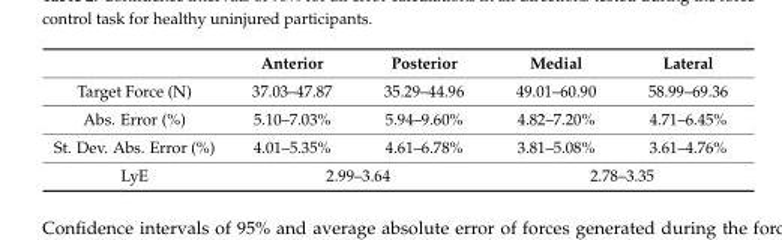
<table><thead><tr><td></td><td>Anterior</td><td>Posterior</td><td>Medial</td><td>Lateral</td></tr></thead><tbody><tr><td>Target Force (N)</td><td>37.03–47.87</td><td>35.29–44.96</td><td>49.01–60.90</td><td>58.99–69.36</td></tr><tr><td>Abs. Error (%)</td><td>5.10–7.03%</td><td>5.94–9.60%</td><td>4.82–7.20%</td><td>4.71–6.45%</td></tr><tr><td>St. Dev. Abs. Error (%)</td><td>4.01–5.35%</td><td>4.61–6.78%</td><td>3.81–5.08%</td><td>3.61–4.76%</td></tr><tr><td>LyE</td><td colspan="2">2.99–3.64</td><td colspan="2">2.78–3.35</td></tr></tbody></table>